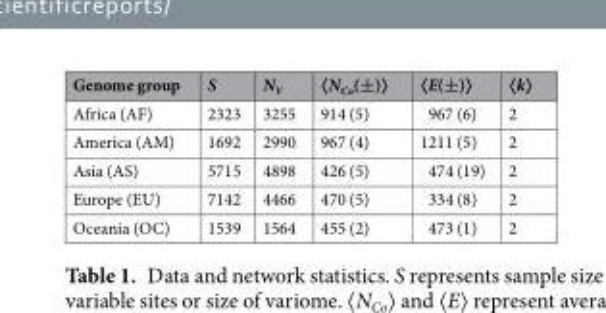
<table><thead><tr><td>Genome group</td><td>S</td><td>N<sub>V</sub></td><td>〈N<sub>Co</sub>(±)〉</td><td>〈E(±)〉</td><td>〈k〉</td></tr></thead><tbody><tr><td>Africa (AF)</td><td>2323</td><td>3255</td><td>914 (5)</td><td>967 (6)</td><td>2</td></tr><tr><td>America (AM)</td><td>1692</td><td>2990</td><td>967 (4)</td><td>1211 (5)</td><td>2</td></tr><tr><td>Asia (AS)</td><td>5715</td><td>4898</td><td>426 (5)</td><td>474 (19)</td><td>2</td></tr><tr><td>Europe (EU)</td><td>7142</td><td>4466</td><td>470 (5)</td><td>334 (8)</td><td>2</td></tr><tr><td>Oceania (OC)</td><td>1539</td><td>1564</td><td>455 (2)</td><td>473 (1)</td><td>2</td></tr></tbody></table>